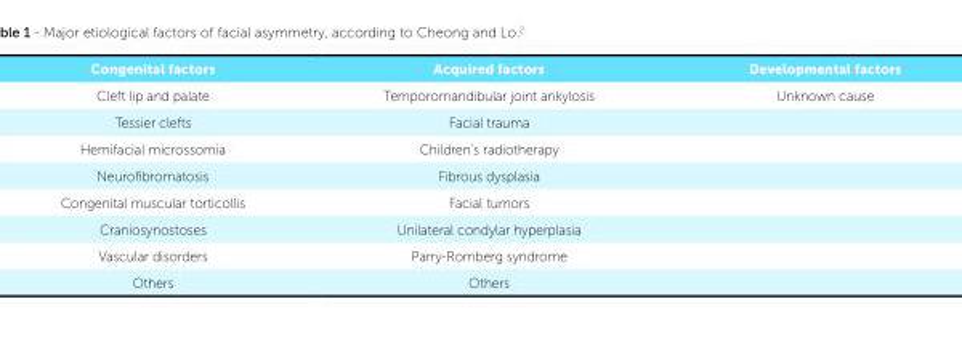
<table><thead><tr><td>Congenital factors</td><td>Acquired factors</td><td>Developmental factors</td></tr></thead><tbody><tr><td>Cleft lip and palate</td><td>Temporomandibular joint ankylosis</td><td>Unknown cause</td></tr><tr><td>Tessier clefts</td><td>Facial trauma</td><td></td></tr><tr><td>Hemifacial microssomia</td><td>Children’s radiotherapy</td><td></td></tr><tr><td>Neurofibromatosis</td><td>Fibrous dysplasia</td><td></td></tr><tr><td>Congenital muscular torticollis</td><td>Facial tumors</td><td></td></tr><tr><td>Craniosynostoses</td><td>Unilateral condylar hyperplasia</td><td></td></tr><tr><td>Vascular disorders</td><td>Parry-Romberg syndrome</td><td></td></tr><tr><td>Others</td><td>Others</td><td></td></tr></tbody></table>